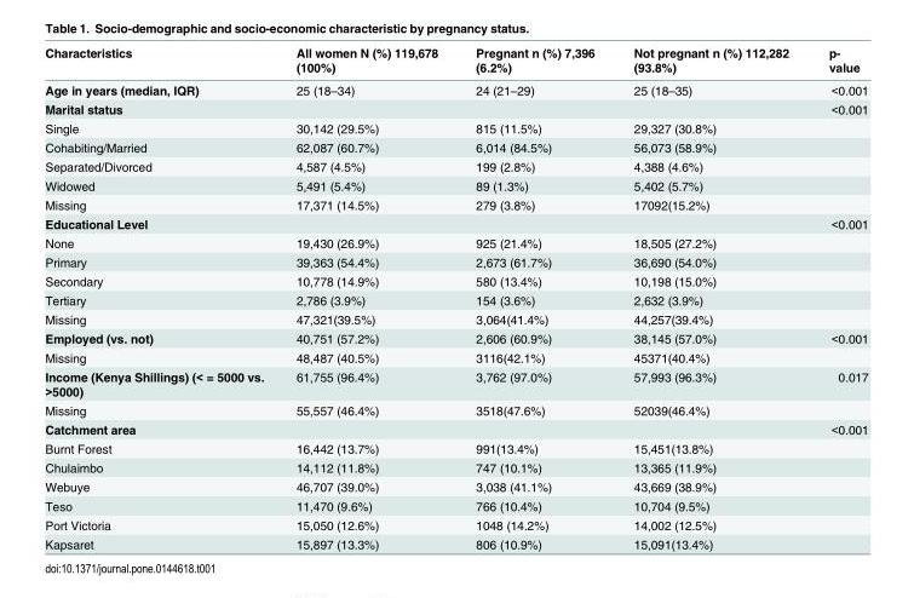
<table><thead><tr><td>Characteristics</td><td>All women N (%) 119,678 (100%)</td><td>Pregnant n (%) 7,396 (6.2%)</td><td>Not pregnant n (%) 112,282 (93.8%)</td><td>p- value</td></tr></thead><tbody><tr><td>Age in years (median, IQR)</td><td>25 (18–34)</td><td>24 (21–29)</td><td>25 (18–35)</td><td>&lt;0.001</td></tr><tr><td>Marital status</td><td></td><td></td><td></td><td>&lt;0.001</td></tr><tr><td>Single</td><td>30,142 (29.5%)</td><td>815 (11.5%)</td><td>29,327 (30.8%)</td><td></td></tr><tr><td>Cohabiting/Married</td><td>62,087 (60.7%)</td><td>6,014 (84.5%)</td><td>56,073 (58.9%)</td><td></td></tr><tr><td>Separated/Divorced</td><td>4,587 (4.5%)</td><td>199 (2.8%)</td><td>4,388 (4.6%)</td><td></td></tr><tr><td>Widowed</td><td>5,491 (5.4%)</td><td>89 (1.3%)</td><td>5,402 (5.7%)</td><td></td></tr><tr><td>Missing</td><td>17,371 (14.5%)</td><td>279 (3.8%)</td><td>17092(15.2%)</td><td></td></tr><tr><td>Educational Level</td><td></td><td></td><td></td><td>&lt;0.001</td></tr><tr><td>None</td><td>19,430 (26.9%)</td><td>925 (21.4%)</td><td>18,505 (27.2%)</td><td></td></tr><tr><td>Primary</td><td>39,363 (54.4%)</td><td>2,673 (61.7%)</td><td>36,690 (54.0%)</td><td></td></tr><tr><td>Secondary</td><td>10,778 (14.9%)</td><td>580 (13.4%)</td><td>10,198 (15.0%)</td><td></td></tr><tr><td>Tertiary</td><td>2,786 (3.9%)</td><td>154 (3.6%)</td><td>2,632 (3.9%)</td><td></td></tr><tr><td>Missing</td><td>47,321(39.5%)</td><td>3,064(41.4%)</td><td>44,257(39.4%)</td><td></td></tr><tr><td>Employed (vs. not)</td><td>40,751 (57.2%)</td><td>2,606 (60.9%)</td><td>38,145 (57.0%)</td><td>&lt;0.001</td></tr><tr><td>Missing</td><td>48,487 (40.5%)</td><td>3116(42.1%)</td><td>45371(40.4%)</td><td></td></tr><tr><td>Income (Kenya Shillings) (&lt; = 5000 vs. &gt;5000)</td><td>61,755 (96.4%)</td><td>3,762 (97.0%)</td><td>57,993 (96.3%)</td><td>0.017</td></tr><tr><td>Missing</td><td>55,557 (46.4%)</td><td>3518(47.6%)</td><td>52039(46.4%)</td><td></td></tr><tr><td>Catchment area</td><td></td><td></td><td></td><td>&lt;0.001</td></tr><tr><td>Burnt Forest</td><td>16,442 (13.7%)</td><td>991(13.4%)</td><td>15,451(13.8%)</td><td></td></tr><tr><td>Chulaimbo</td><td>14,112 (11.8%)</td><td>747 (10.1%)</td><td>13,365 (11.9%)</td><td></td></tr><tr><td>Webuye</td><td>46,707 (39.0%)</td><td>3,038 (41.1%)</td><td>43,669 (38.9%)</td><td></td></tr><tr><td>Teso</td><td>11,470 (9.6%)</td><td>766 (10.4%)</td><td>10,704 (9.5%)</td><td></td></tr><tr><td>Port Victoria</td><td>15,050 (12.6%)</td><td>1048 (14.2%)</td><td>14,002 (12.5%)</td><td></td></tr><tr><td>Kapsaret</td><td>15,897 (13.3%)</td><td>806 (10.9%)</td><td>15,091(13.4%)</td><td></td></tr></tbody></table>